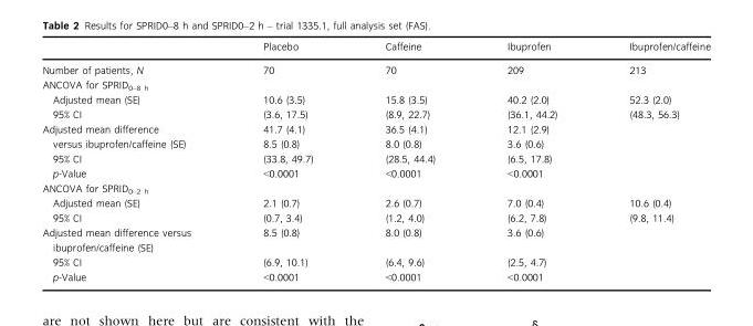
<table><thead><tr><td></td><td>Placebo</td><td>Caffeine</td><td>Ibuprofen</td><td>Ibuprofen/caffeine</td></tr></thead><tbody><tr><td>Number of patients, N</td><td>70</td><td>70</td><td>209</td><td>213</td></tr><tr><td colspan="5">ANCOVA for SPRID<sub>0–8 h</sub></td></tr><tr><td>Adjusted mean (SE)</td><td>10.6 (3.5)</td><td>15.8 (3.5)</td><td>40.2 (2.0)</td><td>52.3 (2.0)</td></tr><tr><td>95% CI</td><td>(3.6, 17.5)</td><td>(8.9, 22.7)</td><td>(36.1, 44.2)</td><td>(48.3, 56.3)</td></tr><tr><td>Adjusted mean difference versus ibuprofen/caffeine (SE)</td><td>41.7 (4.1) 8.5 (0.8)</td><td>36.5 (4.1) 8.0 (0.8)</td><td>12.1 (2.9) 3.6 (0.6)</td><td></td></tr><tr><td>95% CI</td><td>(33.8, 49.7)</td><td>(28.5, 44.4)</td><td>(6.5, 17.8)</td><td></td></tr><tr><td>p-Value</td><td>&lt;0.0001</td><td>&lt;0.0001</td><td>&lt;0.0001</td><td></td></tr><tr><td colspan="5">ANCOVA for SPRID<sub>0–2 h</sub></td></tr><tr><td>Adjusted mean (SE)</td><td>2.1 (0.7)</td><td>2.6 (0.7)</td><td>7.0 (0.4)</td><td>10.6 (0.4)</td></tr><tr><td>95% CI</td><td>(0.7, 3.4)</td><td>(1.2, 4.0)</td><td>(6.2, 7.8)</td><td>(9.8, 11.4)</td></tr><tr><td>Adjusted mean difference versus ibuprofen/caffeine (SE)</td><td>8.5 (0.8)</td><td>8.0 (0.8)</td><td>3.6 (0.6)</td><td></td></tr><tr><td>95% CI</td><td>(6.9, 10.1)</td><td>(6.4, 9.6)</td><td>(2.5, 4.7)</td><td></td></tr><tr><td>p-Value</td><td>&lt;0.0001</td><td>&lt;0.0001</td><td>&lt;0.0001</td><td></td></tr></tbody></table>